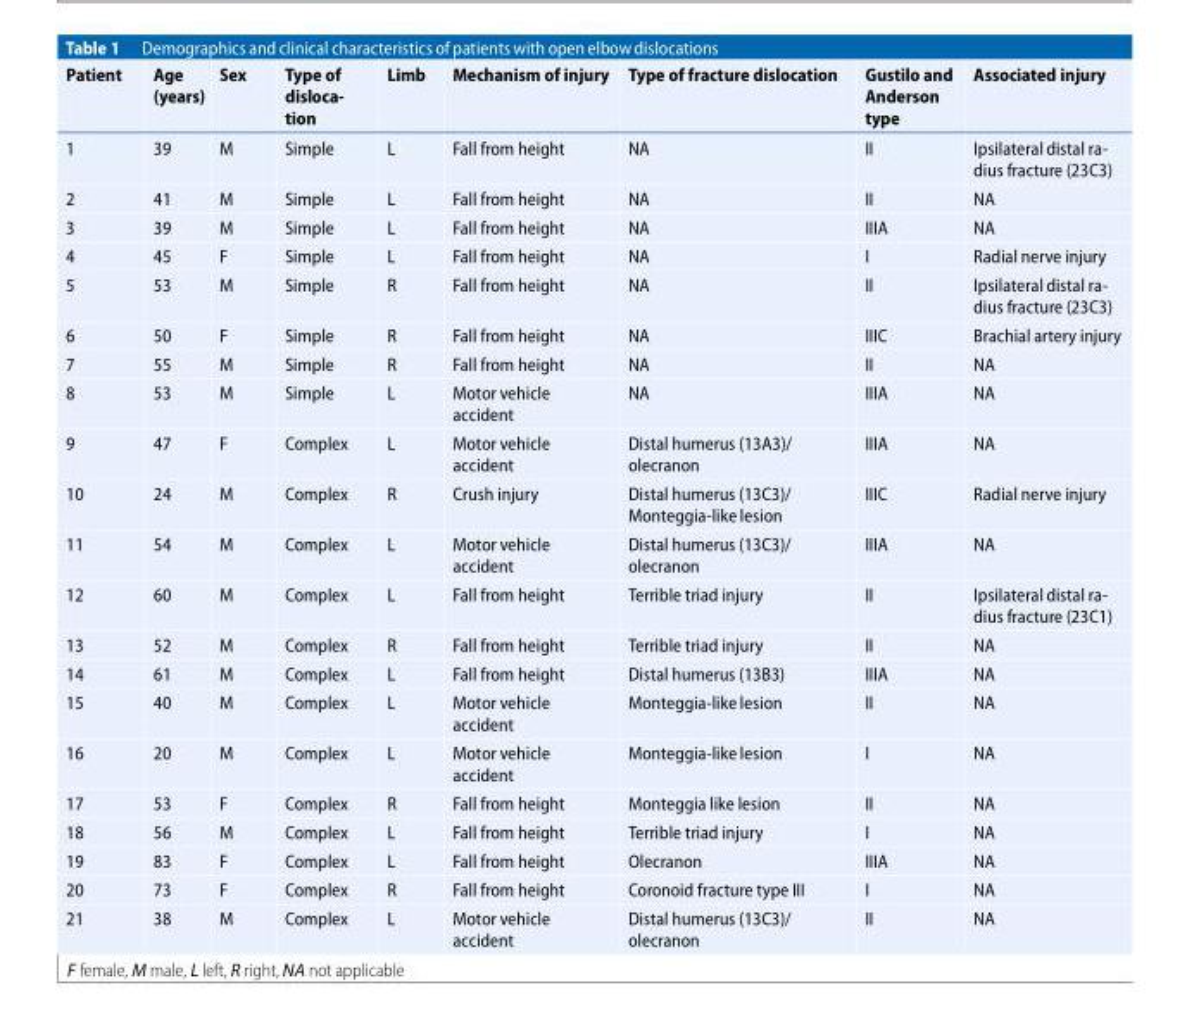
<table><thead><tr><td>Patient</td><td>Age (years)</td><td>Sex</td><td>Type of disloca- tion</td><td>Limb</td><td>Mechanism of injury</td><td>Type of fracture dislocation</td><td>Gustilo and Anderson type</td><td>Associated injury</td></tr></thead><tbody><tr><td>1</td><td>39</td><td>M</td><td>Simple</td><td>L</td><td>Fall from height</td><td>NA</td><td>II</td><td>Ipsilateral distal ra- dius fracture (23C3)</td></tr><tr><td>2</td><td>41</td><td>M</td><td>Simple</td><td>L</td><td>Fall from height</td><td>NA</td><td>II</td><td>NA</td></tr><tr><td>3</td><td>39</td><td>M</td><td>Simple</td><td>L</td><td>Fall from height</td><td>NA</td><td>IIIA</td><td>NA</td></tr><tr><td>4</td><td>45</td><td>F</td><td>Simple</td><td>L</td><td>Fall from height</td><td>NA</td><td>I</td><td>Radial nerve injury</td></tr><tr><td>5</td><td>53</td><td>M</td><td>Simple</td><td>R</td><td>Fall from height</td><td>NA</td><td>II</td><td>Ipsilateral distal ra- dius fracture (23C3)</td></tr><tr><td>6</td><td>50</td><td>F</td><td>Simple</td><td>R</td><td>Fall from height</td><td>NA</td><td>IIIC</td><td>Brachial artery injury</td></tr><tr><td>7</td><td>55</td><td>M</td><td>Simple</td><td>R</td><td>Fall from height</td><td>NA</td><td>II</td><td>NA</td></tr><tr><td>8</td><td>53</td><td>M</td><td>Simple</td><td>L</td><td>Motor vehicle accident</td><td>NA</td><td>IIIA</td><td>NA</td></tr><tr><td>9</td><td>47</td><td>F</td><td>Complex</td><td>L</td><td>Motor vehicle accident</td><td>Distal humerus (13A3)/ olecranon</td><td>IIIA</td><td>NA</td></tr><tr><td>10</td><td>24</td><td>M</td><td>Complex</td><td>R</td><td>Crush injury</td><td>Distal humerus (13C3)/ Monteggia-like lesion</td><td>IIIC</td><td>Radial nerve injury</td></tr><tr><td>11</td><td>54</td><td>M</td><td>Complex</td><td>L</td><td>Motor vehicle accident</td><td>Distal humerus (13C3)/ olecranon</td><td>IIIA</td><td>NA</td></tr><tr><td>12</td><td>60</td><td>M</td><td>Complex</td><td>L</td><td>Fall from height</td><td>Terrible triad injury</td><td>II</td><td>Ipsilateral distal ra- dius fracture (23C1)</td></tr><tr><td>13</td><td>52</td><td>M</td><td>Complex</td><td>R</td><td>Fall from height</td><td>Terrible triad injury</td><td>II</td><td>NA</td></tr><tr><td>14</td><td>61</td><td>M</td><td>Complex</td><td>L</td><td>Fall from height</td><td>Distal humerus (13B3)</td><td>IIIA</td><td>NA</td></tr><tr><td>15</td><td>40</td><td>M</td><td>Complex</td><td>L</td><td>Motor vehicle accident</td><td>Monteggia-like lesion</td><td>II</td><td>NA</td></tr><tr><td>16</td><td>20</td><td>M</td><td>Complex</td><td>L</td><td>Motor vehicle accident</td><td>Monteggia-like lesion</td><td>I</td><td>NA</td></tr><tr><td>17</td><td>53</td><td>F</td><td>Complex</td><td>R</td><td>Fall from height</td><td>Monteggia like lesion</td><td>II</td><td>NA</td></tr><tr><td>18</td><td>56</td><td>M</td><td>Complex</td><td>L</td><td>Fall from height</td><td>Terrible triad injury</td><td>I</td><td>NA</td></tr><tr><td>19</td><td>83</td><td>F</td><td>Complex</td><td>L</td><td>Fall from height</td><td>Olecranon</td><td>IIIA</td><td>NA</td></tr><tr><td>20</td><td>73</td><td>F</td><td>Complex</td><td>R</td><td>Fall from height</td><td>Coronoid fracture type III</td><td>I</td><td>NA</td></tr><tr><td>21</td><td>38</td><td>M</td><td>Complex</td><td>L</td><td>Motor vehicle accident</td><td>Distal humerus (13C3)/ olecranon</td><td>II</td><td>NA</td></tr></tbody></table>